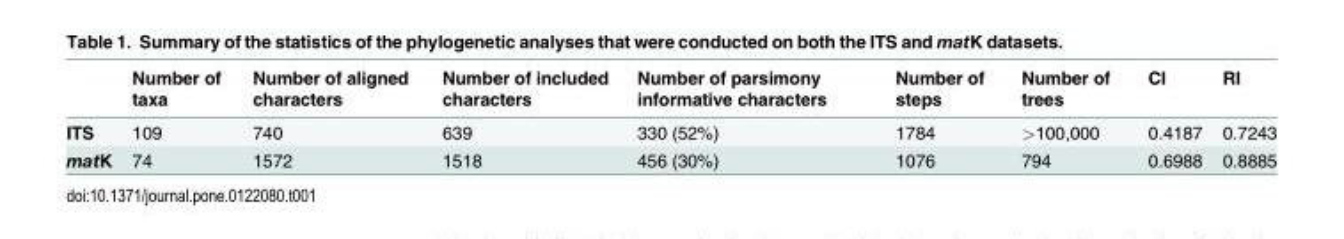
<table><thead><tr><td></td><td>Number of taxa</td><td>Number of aligned characters</td><td>Number of included characters</td><td>Number of parsimony informative characters</td><td>Number of steps</td><td>Number of trees</td><td>CI</td><td>RI</td></tr></thead><tbody><tr><td>ITS</td><td>109</td><td>740</td><td>639</td><td>330 (52%)</td><td>1784</td><td>&gt;100,000</td><td>0.4187</td><td>0.7243</td></tr><tr><td>matK</td><td>74</td><td>1572</td><td>1518</td><td>456 (30%)</td><td>1076</td><td>794</td><td>0.6988</td><td>0.8885</td></tr></tbody></table>